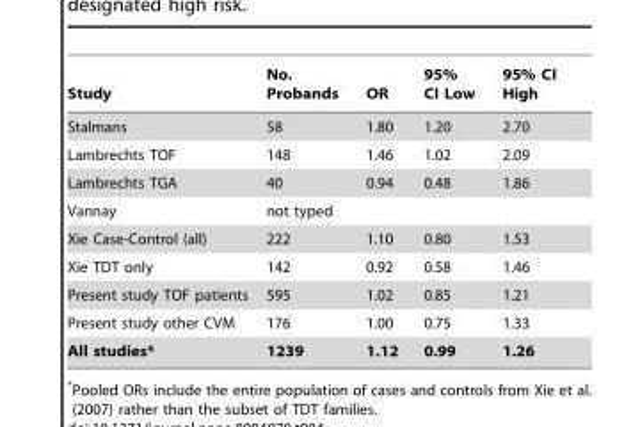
<table><thead><tr><td>Study</td><td>No. Probands</td><td>OR</td><td>95% CI Low</td><td>95% CI High</td></tr></thead><tbody><tr><td>Stalmans</td><td>58</td><td>1.80</td><td>1.20</td><td>2.70</td></tr><tr><td>Lambrechts TOF</td><td>148</td><td>1.46</td><td>1.02</td><td>2.09</td></tr><tr><td>Lambrechts TGA</td><td>40</td><td>0.94</td><td>0.48</td><td>1.86</td></tr><tr><td>Vannay</td><td>not typed</td><td></td><td></td><td></td></tr><tr><td>Xie Case-Control (all)</td><td>222</td><td>1.10</td><td>0.80</td><td>1.53</td></tr><tr><td>Xie TDT only</td><td>142</td><td>0.92</td><td>0.58</td><td>1.46</td></tr><tr><td>Present study TOF patients</td><td>595</td><td>1.02</td><td>0.85</td><td>1.21</td></tr><tr><td>Present study other CVM</td><td>176</td><td>1.00</td><td>0.75</td><td>1.33</td></tr><tr><td>All studies*</td><td>1239</td><td>1.12</td><td>0.99</td><td>1.26</td></tr></tbody></table>